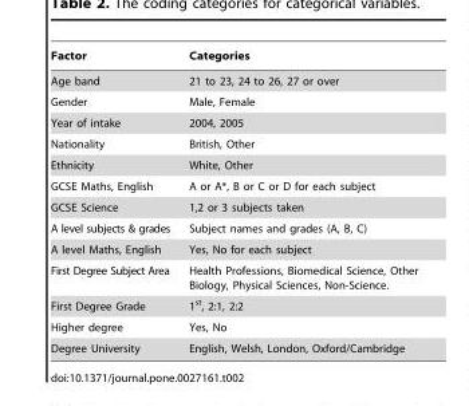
<table><thead><tr><td>Factor</td><td>Categories</td></tr></thead><tbody><tr><td>Age band</td><td>21 to 23, 24 to 26, 27 or over</td></tr><tr><td>Gender</td><td>Male, Female</td></tr><tr><td>Year of intake</td><td>2004, 2005</td></tr><tr><td>Nationality</td><td>British, Other</td></tr><tr><td>Ethnicity</td><td>White, Other</td></tr><tr><td>GCSE Maths, English</td><td>A or A*, B or C or D for each subject</td></tr><tr><td>GCSE Science</td><td>1,2 or 3 subjects taken</td></tr><tr><td>A level subjects &amp; grades</td><td>Subject names and grades (A, B, C)</td></tr><tr><td>A level Maths, English</td><td>Yes, No for each subject</td></tr><tr><td>First Degree Subject Area</td><td>Health Professions, Biomedical Science, Other Biology, Physical Sciences, Non-Science.</td></tr><tr><td>First Degree Grade</td><td>1st, 2:1, 2:2</td></tr><tr><td>Higher degree</td><td>Yes, No</td></tr><tr><td>Degree University</td><td>English, Welsh, London, Oxford/Cambridge</td></tr></tbody></table>